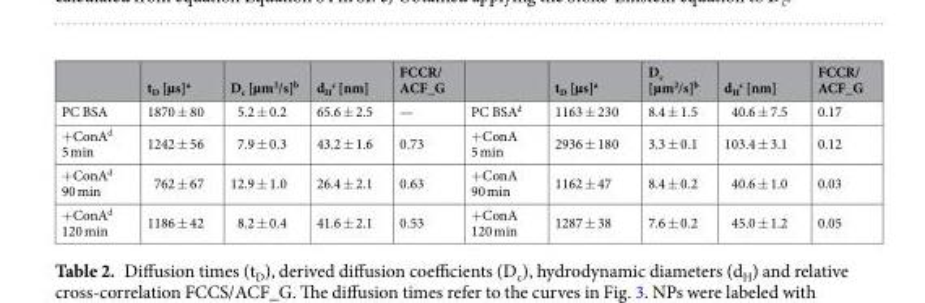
<table><thead><tr><td></td><td>t<sub>D</sub> [µs]<sup>a</sup></td><td>D<sub>c</sub> [µm<sup>2</sup>/s]<sup>b</sup></td><td>d<sub>H</sub> <sup>c</sup> [nm]</td><td>FCCR/ ACF_G</td><td></td><td>t<sub>D</sub> [µs]<sup>a</sup></td><td>D<sub>c</sub> [µm<sup>2</sup>/s]<sup>b</sup></td><td>d<sub>H</sub> <sup>c</sup> [nm]</td><td>FCCR/ ACF_G</td></tr></thead><tbody><tr><td>PC BSA</td><td>1870 ± 80</td><td>5.2 ± 0.2</td><td>65.6 ± 2.5</td><td>—</td><td>PC BSA<sup>d</sup></td><td>1163 ± 230</td><td>8.4 ± 1.5</td><td>40.6 ± 7.5</td><td>0.17</td></tr><tr><td>+ConA<sup>d</sup> 5 min</td><td>1242 ± 56</td><td>7.9 ± 0.3</td><td>43.2 ± 1.6</td><td>0.73</td><td>+ConA 5 min</td><td>2936 ± 180</td><td>3.3 ± 0.1</td><td>103.4 ± 3.1</td><td>0.12</td></tr><tr><td>+ConA<sup>d</sup> 90 min</td><td>762 ± 67</td><td>12.9 ± 1.0</td><td>26.4 ± 2.1</td><td>0.63</td><td>+ConA 90 min</td><td>1162 ± 47</td><td>8.4 ± 0.2</td><td>40.6 ± 1.0</td><td>0.03</td></tr><tr><td>+ConA<sup>d</sup> 120 min</td><td>1186 ± 42</td><td>8.2 ± 0.4</td><td>41.6 ± 2.1</td><td>0.53</td><td>+ConA 120 min</td><td>1287 ± 38</td><td>7.6 ± 0.2</td><td>45.0 ± 1.2</td><td>0.05</td></tr></tbody></table>